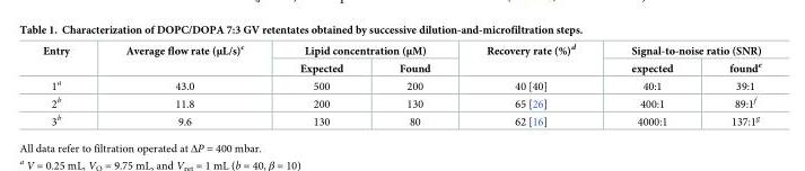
<table><thead><tr><td rowspan="2">Entry</td><td rowspan="2">Average flow rate (μL/s)<sup>c</sup></td><td colspan="2">Lipid concentration (μM)</td><td rowspan="2">Recovery rate (%)<sup>d</sup></td><td colspan="2">Signal-to-noise ratio (SNR)</td></tr><tr><td>Expected</td><td>Found</td><td>expected</td><td>found<sup>e</sup></td></tr></thead><tbody><tr><td>1<sup>a</sup></td><td>43.0</td><td>500</td><td>200</td><td>40 [40]</td><td>40:1</td><td>39:1</td></tr><tr><td>2<sup>b</sup></td><td>11.8</td><td>200</td><td>130</td><td>65 [26]</td><td>400:1</td><td>89:1<sup>f</sup></td></tr><tr><td>3<sup>b</sup></td><td>9.6</td><td>130</td><td>80</td><td>62 [16]</td><td>4000:1</td><td>137:1<sup>g</sup></td></tr></tbody></table>